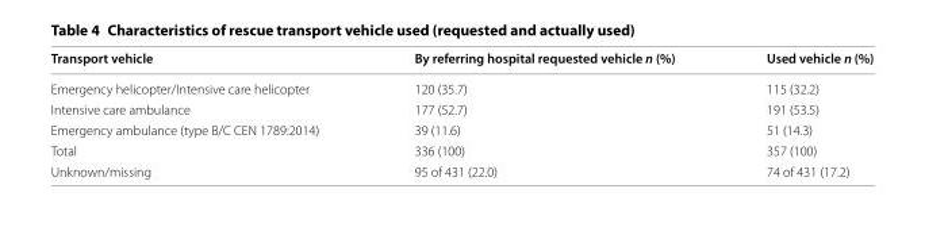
<table><thead><tr><td>Transport vehicle</td><td>By referring hospital requested vehicle n (%)</td><td>Used vehicle n (%)</td></tr></thead><tbody><tr><td>Emergency helicopter/Intensive care helicopter</td><td>120 (35.7)</td><td>115 (32.2)</td></tr><tr><td>Intensive care ambulance</td><td>177 (52.7)</td><td>191 (53.5)</td></tr><tr><td>Emergency ambulance (type B/C CEN 1789:2014)</td><td>39 (11.6)</td><td>51 (14.3)</td></tr><tr><td>Total</td><td>336 (100)</td><td>357 (100)</td></tr><tr><td>Unknown/missing</td><td>95 of 431 (22.0)</td><td>74 of 431 (17.2)</td></tr></tbody></table>